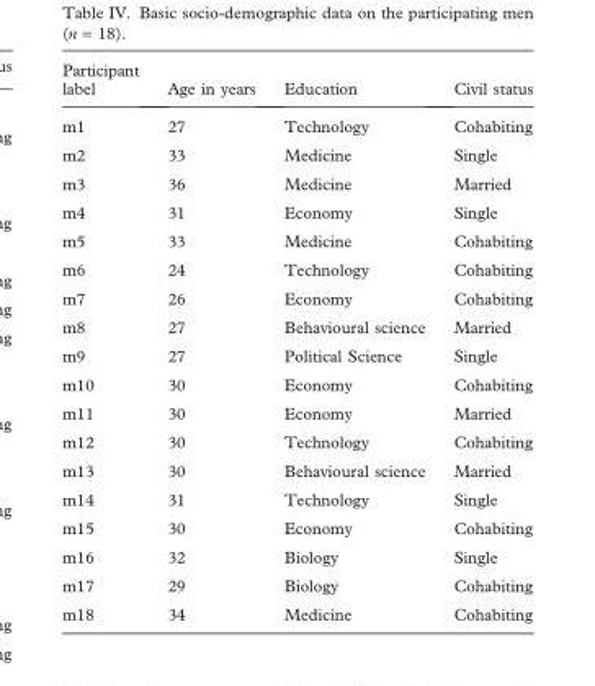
<table><thead><tr><td>Participant label</td><td>Age in years</td><td>Education</td><td>Civil status</td></tr></thead><tbody><tr><td>m1</td><td>27</td><td>Technology</td><td>Cohabiting</td></tr><tr><td>m2</td><td>33</td><td>Medicine</td><td>Single</td></tr><tr><td>m3</td><td>36</td><td>Medicine</td><td>Married</td></tr><tr><td>m4</td><td>31</td><td>Economy</td><td>Single</td></tr><tr><td>m5</td><td>33</td><td>Medicine</td><td>Cohabiting</td></tr><tr><td>m6</td><td>24</td><td>Technology</td><td>Cohabiting</td></tr><tr><td>m7</td><td>26</td><td>Economy</td><td>Cohabiting</td></tr><tr><td>m8</td><td>27</td><td>Behavioural science</td><td>Married</td></tr><tr><td>m9</td><td>27</td><td>Political Science</td><td>Single</td></tr><tr><td>m10</td><td>30</td><td>Economy</td><td>Cohabiting</td></tr><tr><td>m11</td><td>30</td><td>Economy</td><td>Married</td></tr><tr><td>m12</td><td>30</td><td>Technology</td><td>Cohabiting</td></tr><tr><td>m13</td><td>30</td><td>Behavioural science</td><td>Married</td></tr><tr><td>m14</td><td>31</td><td>Technology</td><td>Single</td></tr><tr><td>m15</td><td>30</td><td>Economy</td><td>Cohabiting</td></tr><tr><td>m16</td><td>32</td><td>Biology</td><td>Single</td></tr><tr><td>m17</td><td>29</td><td>Biology</td><td>Cohabiting</td></tr><tr><td>m18</td><td>34</td><td>Medicine</td><td>Cohabiting</td></tr></tbody></table>